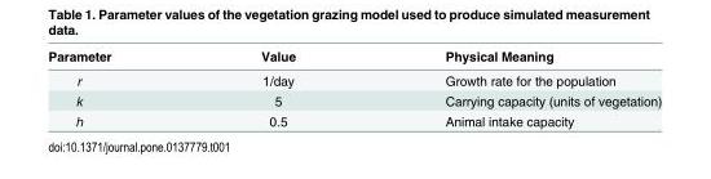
<table><thead><tr><td>Parameter</td><td>Value</td><td>Physical Meaning</td></tr></thead><tbody><tr><td>r</td><td>1/day</td><td>Growth rate for the population</td></tr><tr><td>k</td><td>5</td><td>Carrying capacity (units of vegetation)</td></tr><tr><td>h</td><td>0.5</td><td>Animal intake capacity</td></tr></tbody></table>